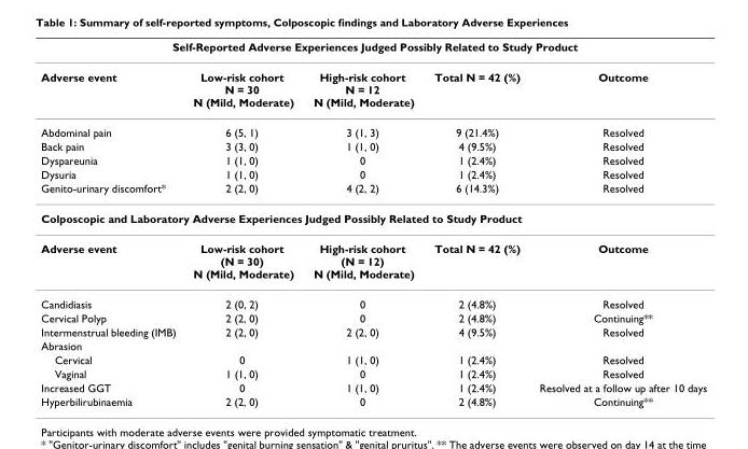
<table><thead><tr><td colspan="5">Self-Reported Adverse Experiences Judged Possibly Related to Study Product</td></tr><tr><td>Adverse event</td><td>Low-risk cohort N = 30 N (Mild, Moderate)</td><td>High-risk cohort N = 12 N (Mild, Moderate)</td><td>Total N = 42 (%)</td><td>Outcome</td></tr></thead><tbody><tr><td>Abdominal pain</td><td>6 (5, 1)</td><td>3 (1, 3)</td><td>9 (21.4%)</td><td>Resolved</td></tr><tr><td>Back pain</td><td>3 (3, 0)</td><td>1 (1, 0)</td><td>4 (9.5%)</td><td>Resolved</td></tr><tr><td>Dyspareunia</td><td>1 (1, 0)</td><td>0</td><td>1 (2.4%)</td><td>Resolved</td></tr><tr><td>Dysuria</td><td>1 (1, 0)</td><td>0</td><td>1 (2.4%)</td><td>Resolved</td></tr><tr><td>Genito-urinary discomfort*</td><td>2 (2, 0)</td><td>4 (2, 2)</td><td>6 (14.3%)</td><td>Resolved</td></tr><tr><td colspan="5">Colposcopic and Laboratory Adverse Experiences Judged Possibly Related to Study Product</td></tr><tr><td>Adverse event</td><td>Low-risk cohort (N = 30) N (Mild, Moderate)</td><td>High-risk cohort (N = 12) N (Mild, Moderate)</td><td>Total N = 42 (%)</td><td>Outcome</td></tr><tr><td>Candidiasis</td><td>2 (0, 2)</td><td>0</td><td>2 (4.8%)</td><td>Resolved</td></tr><tr><td>Cervical Polyp</td><td>2 (2, 0)</td><td>0</td><td>2 (4.8%)</td><td>Continuing**</td></tr><tr><td>Intermenstrual bleeding (IMB)</td><td>2 (2, 0)</td><td>2 (2, 0)</td><td>4 (9.5%)</td><td>Resolved</td></tr><tr><td colspan="5">Abrasion</td></tr><tr><td>Cervical</td><td>0</td><td>1 (1, 0)</td><td>1 (2.4%)</td><td>Resolved</td></tr><tr><td>Vaginal</td><td>1 (1, 0)</td><td>0</td><td>1 (2.4%)</td><td>Resolved</td></tr><tr><td>Increased GGT</td><td>0</td><td>1 (1, 0)</td><td>1 (2.4%)</td><td>Resolved at a follow up after 10 days</td></tr><tr><td>Hyperbilirubinaemia</td><td>2 (2, 0)</td><td>0</td><td>2 (4.8%)</td><td>Continuing**</td></tr></tbody></table>